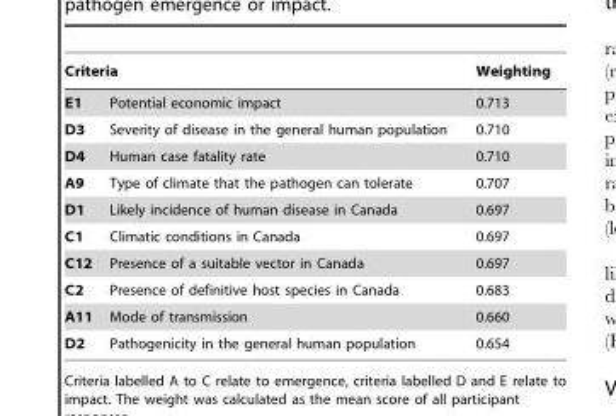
<table><thead><tr><td colspan="2">Criteria</td><td rowspan="2">Weighting 0.713</td></tr><tr><td>E1</td><td>Potential economic impact</td></tr></thead><tbody><tr><td>D3</td><td>Severity of disease in the general human population</td><td>0.710</td></tr><tr><td>D4</td><td>Human case fatality rate</td><td>0.710</td></tr><tr><td>A9</td><td>Type of climate that the pathogen can tolerate</td><td>0.707</td></tr><tr><td>D1</td><td>Likely incidence of human disease in Canada</td><td>0.697</td></tr><tr><td>C1</td><td>Climatic conditions in Canada</td><td>0.697</td></tr><tr><td>C12</td><td>Presence of a suitable vector in Canada</td><td>0.697</td></tr><tr><td>C2</td><td>Presence of definitive host species in Canada</td><td>0.683</td></tr><tr><td>A11</td><td>Mode of transmission</td><td>0.660</td></tr><tr><td>D2</td><td>Pathogenicity in the general human population</td><td>0.654</td></tr></tbody></table>